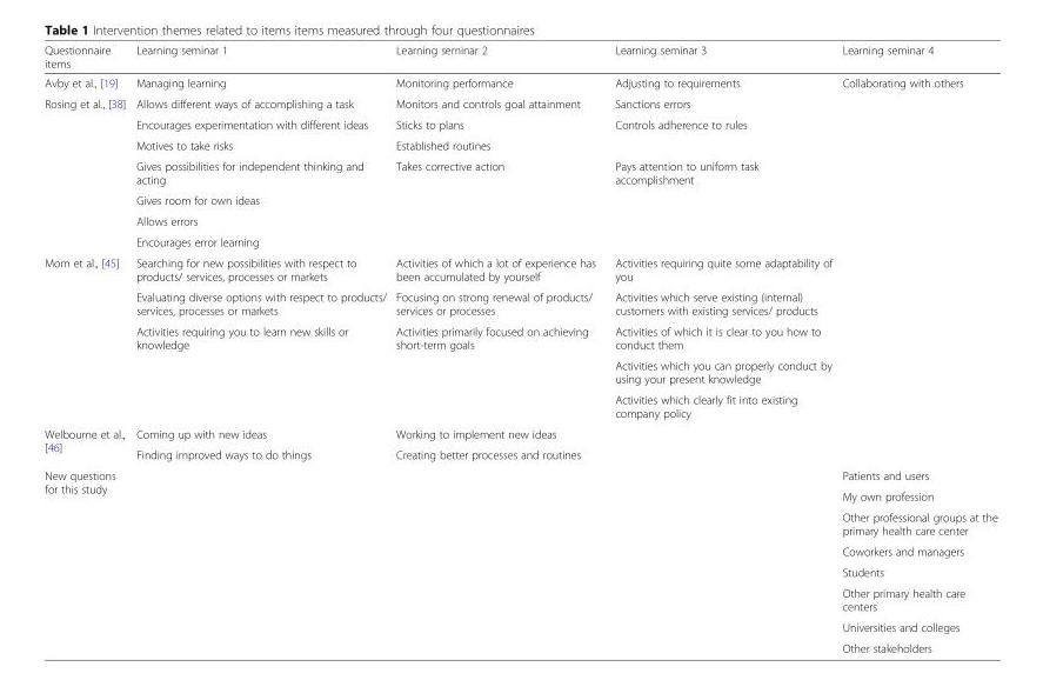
<table><thead><tr><td>Questionnaire items</td><td>Learning seminar 1</td><td>Learning seminar 2</td><td>Learning seminar 3</td><td>Learning seminar 4</td></tr></thead><tbody><tr><td>Avby et al., [19]</td><td>Managing learning</td><td>Monitoring performance</td><td>Adjusting to requirements</td><td>Collaborating with others</td></tr><tr><td rowspan="7">Rosing et al., [38]</td><td>Allows different ways of accomplishing a task</td><td>Monitors and controls goal attainment</td><td>Sanctions errors</td><td rowspan="7"></td></tr><tr><td>Encourages experimentation with different ideas</td><td>Sticks to plans</td><td>Controls adherence to rules</td></tr><tr><td>Motives to take risks</td><td>Established routines</td><td></td></tr><tr><td>Gives possibilities for independent thinking and acting</td><td>Takes corrective action</td><td>Pays attention to uniform task accomplishment</td></tr><tr><td>Gives room for own ideas</td><td></td><td></td></tr><tr><td>Allows errors</td><td></td><td></td></tr><tr><td>Encourages error learning</td><td></td><td></td></tr><tr><td rowspan="5">Mom et al., [45]</td><td>Searching for new possibilities with respect to products/ services, processes or markets</td><td>Activities of which a lot of experience has been accumulated by yourself</td><td>Activities requiring quite some adaptability of you</td><td rowspan="5"></td></tr><tr><td>Evaluating diverse options with respect to products/ services, processes or markets</td><td>Focusing on strong renewal of products/ services or processes</td><td>Activities which serve existing (internal) customers with existing services/ products</td></tr><tr><td>Activities requiring you to learn new skills or knowledge</td><td>Activities primarily focused on achieving short-term goals</td><td>Activities of which it is clear to you how to conduct them</td></tr><tr><td></td><td></td><td>Activities which you can properly conduct by using your present knowledge</td></tr><tr><td></td><td></td><td>Activities which clearly fit into existing company policy</td></tr><tr><td rowspan="2">Welbourne et al., [46]</td><td>Coming up with new ideas</td><td>Working to implement new ideas</td><td rowspan="2"></td><td rowspan="2"></td></tr><tr><td>Finding improved ways to do things</td><td>Creating better processes and routines</td></tr><tr><td rowspan="8">New questions for this study</td><td rowspan="8"></td><td rowspan="8"></td><td rowspan="8"></td><td>Patients and users</td></tr><tr><td>My own profession</td></tr><tr><td>Other professional groups at the primary health care center</td></tr><tr><td>Coworkers and managers</td></tr><tr><td>Students</td></tr><tr><td>Other primary health care centers</td></tr><tr><td>Universities and colleges</td></tr><tr><td>Other stakeholders</td></tr></tbody></table>